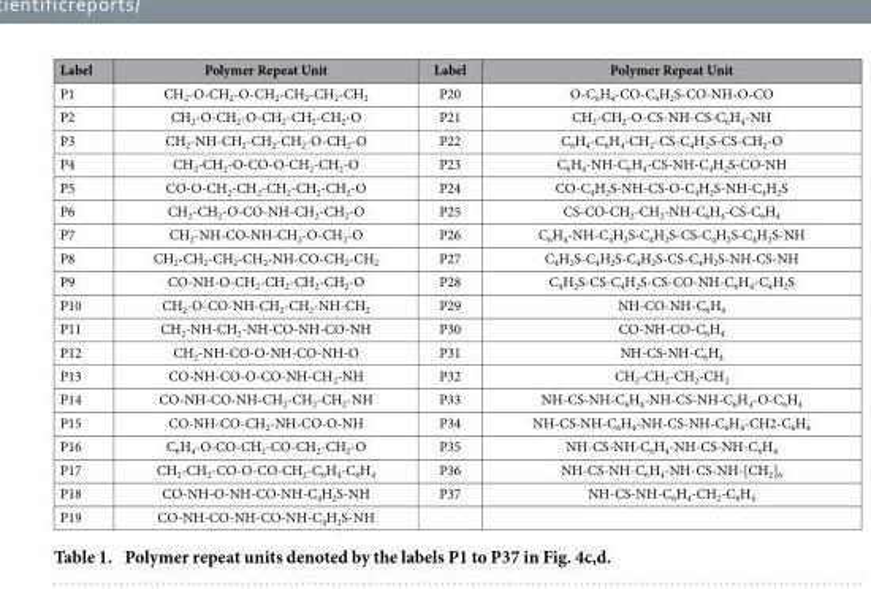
<table><thead><tr><td>Label</td><td>Polymer Repeat Unit</td><td>Label</td><td>Polymer Repeat Unit</td></tr></thead><tbody><tr><td>P1</td><td>CH<sub>2</sub>-O-CH<sub>2</sub>-O-CH<sub>2</sub>-CH<sub>2</sub>-CH<sub>2</sub>-CH<sub>2</sub></td><td>P20</td><td>O-C<sub>6</sub>H<sub>4</sub>-CO-C<sub>4</sub>H<sub>2</sub>S-CO-NH-O-CO</td></tr><tr><td>P2</td><td>CH<sub>2</sub>-O-CH<sub>2</sub>-O-CH<sub>2</sub>-CH<sub>2</sub>-CH<sub>2</sub>-O</td><td>P21</td><td>CH<sub>2</sub>-CH<sub>2</sub>-O-CS-NH-CS-C<sub>6</sub>H<sub>4</sub>-NH</td></tr><tr><td>P3</td><td>CH<sub>2</sub>-NH-CH<sub>2</sub>-CH<sub>2</sub>-CH<sub>2</sub>-O-CH<sub>2</sub>-O</td><td>P22</td><td>C<sub>6</sub>H<sub>4</sub>-C<sub>6</sub>H<sub>4</sub>-CH<sub>2</sub>-CS-C<sub>4</sub>H<sub>2</sub>S-CS-CH<sub>2</sub>-O</td></tr><tr><td>P4</td><td>CH<sub>2</sub>-CH<sub>2</sub>-O-CO-O-CH<sub>2</sub>-CH<sub>2</sub>-O</td><td>P23</td><td>C<sub>6</sub>H<sub>4</sub>-NH-C<sub>6</sub>H<sub>4</sub>-CS-NH-C<sub>4</sub>H<sub>2</sub>S-CO-NH</td></tr><tr><td>P5</td><td>CO-O-CH<sub>2</sub>-CH<sub>2</sub>-CH<sub>2</sub>-CH<sub>2</sub>-CH<sub>2</sub>-O</td><td>P24</td><td>CO-C<sub>4</sub>H<sub>2</sub>S-NH-CS-O-C<sub>4</sub>H<sub>2</sub>S-NH-C<sub>4</sub>H<sub>2</sub>S</td></tr><tr><td>P6</td><td>CH<sub>2</sub>-CH<sub>2</sub>-O-CO-NH-CH<sub>2</sub>-CH<sub>2</sub>-O</td><td>P25</td><td>CS-CO-CH<sub>2</sub>-CH<sub>2</sub>-NH-C<sub>6</sub>H<sub>4</sub>-CS-C<sub>6</sub>H<sub>4</sub></td></tr><tr><td>P7</td><td>CH<sub>2</sub>-NH-CO-NH-CH<sub>2</sub>-O-CH<sub>2</sub>-O</td><td>P26</td><td>C<sub>6</sub>H<sub>4</sub>-NH-C<sub>4</sub>H<sub>2</sub>S-C<sub>4</sub>H<sub>2</sub>S-CS-C<sub>4</sub>H<sub>2</sub>S-C<sub>4</sub>H<sub>2</sub>S-NH</td></tr><tr><td>P8</td><td>CH<sub>2</sub>-CH<sub>2</sub>-CH<sub>2</sub>-CH<sub>2</sub>-NH-CO-CH<sub>2</sub>-CH<sub>2</sub></td><td>P27</td><td>C<sub>4</sub>H<sub>2</sub>S-C<sub>4</sub>H<sub>2</sub>S-C<sub>4</sub>H<sub>2</sub>S-CS-C<sub>4</sub>H<sub>2</sub>S-NH-CS-NH</td></tr><tr><td>P9</td><td>CO-NH-O-CH<sub>2</sub>-CH<sub>2</sub>-CH<sub>2</sub>-CH<sub>2</sub>-O</td><td>P28</td><td>C<sub>4</sub>H<sub>2</sub>S-CS-C<sub>4</sub>H<sub>2</sub>S-CS-CO-NH-C<sub>6</sub>H<sub>4</sub>-C<sub>4</sub>H<sub>2</sub>S</td></tr><tr><td>P10</td><td>CH<sub>2</sub>-O-CO-NH-CH<sub>2</sub>-CH<sub>2</sub>-NH-CH<sub>2</sub></td><td>P29</td><td>NH-CO-NH-C<sub>6</sub>H<sub>4</sub></td></tr><tr><td>P11</td><td>CH<sub>2</sub>-NH-CH<sub>2</sub>-NH-CO-NH-CO-NH</td><td>P30</td><td>CO-NH-CO-C<sub>6</sub>H<sub>4</sub></td></tr><tr><td>P12</td><td>CH<sub>2</sub>-NH-CO-O-NH-CO-NH-O</td><td>P31</td><td>NH-CS-NH-C<sub>6</sub>H<sub>4</sub></td></tr><tr><td>P13</td><td>CO-NH-CO-O-CO-NH-CH<sub>2</sub>-NH</td><td>P32</td><td>CH<sub>2</sub>-CH<sub>2</sub>-CH<sub>2</sub>-CH<sub>2</sub></td></tr><tr><td>P14</td><td>CO-NH-CO-NH-CH<sub>2</sub>-CH<sub>2</sub>-CH<sub>2</sub>-NH</td><td>P33</td><td>NH-CS-NH-C<sub>6</sub>H<sub>4</sub>-NH-CS-NH-C<sub>6</sub>H<sub>4</sub>-O-C<sub>6</sub>H<sub>4</sub></td></tr><tr><td>P15</td><td>CO-NH-CO-CH<sub>2</sub>-NH-CO-O-NH</td><td>P34</td><td>NH-CS-NH-C<sub>6</sub>H<sub>4</sub>-NH-CS-NH-C<sub>6</sub>H<sub>4</sub>-CH2-C<sub>6</sub>H<sub>4</sub></td></tr><tr><td>P16</td><td>C<sub>6</sub>H<sub>4</sub>-O-CO-CH<sub>2</sub>-CO-CH<sub>2</sub>-CH<sub>2</sub>-O</td><td>P35</td><td>NH-CS-NH-C<sub>6</sub>H<sub>4</sub>-NH-CS-NH-C<sub>6</sub>H<sub>4</sub></td></tr><tr><td>P17</td><td>CH<sub>2</sub>-CH<sub>2</sub>-CO-O-CO-CH<sub>2</sub>-C<sub>6</sub>H<sub>4</sub>-C<sub>6</sub>H<sub>4</sub></td><td>P36</td><td>NH-CS-NH-C<sub>6</sub>H<sub>4</sub>-NH-CS-NH-[CH<sub>2</sub>]<sub>6</sub></td></tr><tr><td>P18</td><td>CO-NH-O-NH-CO-NH-C<sub>4</sub>H<sub>2</sub>S-NH</td><td>P37</td><td>NH-CS-NH-C<sub>6</sub>H<sub>4</sub>-CH<sub>2</sub>-C<sub>6</sub>H<sub>4</sub></td></tr><tr><td>P19</td><td>CO-NH-CO-NH-CO-NH-C<sub>4</sub>H<sub>2</sub>S-NH</td><td></td><td></td></tr></tbody></table>